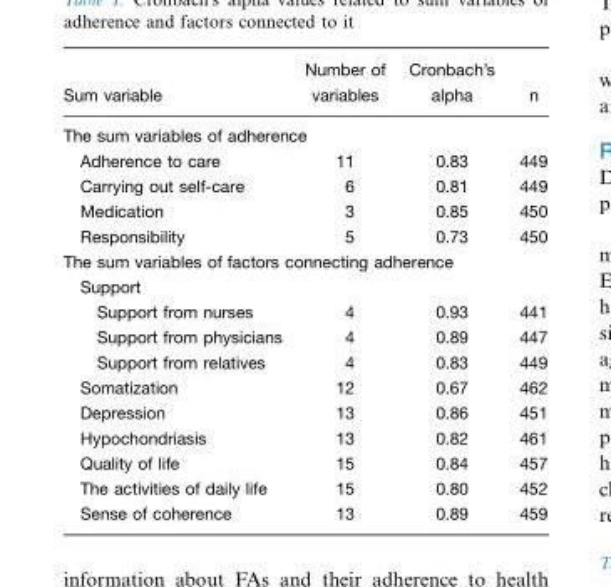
<table><thead><tr><td>Sum variable</td><td>Number of variables</td><td>Cronbach’s alpha</td><td>n</td></tr></thead><tbody><tr><td colspan="4">The sum variables of adherence</td></tr><tr><td>Adherence to care</td><td>11</td><td>0.83</td><td>449</td></tr><tr><td>Carrying out self-care</td><td>6</td><td>0.81</td><td>449</td></tr><tr><td>Medication</td><td>3</td><td>0.85</td><td>450</td></tr><tr><td>Responsibility</td><td>5</td><td>0.73</td><td>450</td></tr><tr><td colspan="4">The sum variables of factors connecting adherence</td></tr><tr><td colspan="4">Support</td></tr><tr><td>Support from nurses</td><td>4</td><td>0.93</td><td>441</td></tr><tr><td>Support from physicians</td><td>4</td><td>0.89</td><td>447</td></tr><tr><td>Support from relatives</td><td>4</td><td>0.83</td><td>449</td></tr><tr><td>Somatization</td><td>12</td><td>0.67</td><td>462</td></tr><tr><td>Depression</td><td>13</td><td>0.86</td><td>451</td></tr><tr><td>Hypochondriasis</td><td>13</td><td>0.82</td><td>461</td></tr><tr><td>Quality of life</td><td>15</td><td>0.84</td><td>457</td></tr><tr><td>The activities of daily life</td><td>15</td><td>0.80</td><td>452</td></tr><tr><td>Sense of coherence</td><td>13</td><td>0.89</td><td>459</td></tr></tbody></table>